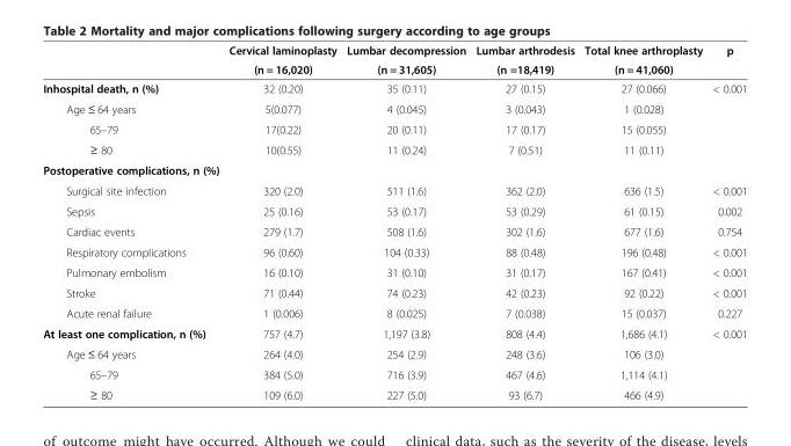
<table><thead><tr><td rowspan="2"></td><td rowspan="2">Cervical laminoplasty (n = 16,020)</td><td rowspan="2">Lumbar decompression (n = 31,605)</td><td rowspan="2">Lumbar arthrodesis (n =18,419)</td><td rowspan="2">Total knee arthroplasty (n = 41,060)</td><td rowspan="2">p</td></tr><tr></tr></thead><tbody><tr><td>Inhospital death, n (%)</td><td>32 (0.20)</td><td>35 (0.11)</td><td>27 (0.15)</td><td>27 (0.066)</td><td>&lt; 0.001</td></tr><tr><td>Age ≤ 64 years</td><td>5(0.077)</td><td>4 (0.045)</td><td>3 (0.043)</td><td>1 (0.028)</td><td></td></tr><tr><td>65–79</td><td>17(0.22)</td><td>20 (0.11)</td><td>17 (0.17)</td><td>15 (0.055)</td><td></td></tr><tr><td>≥ 80</td><td>10(0.55)</td><td>11 (0.24)</td><td>7 (0.51)</td><td>11 (0.11)</td><td></td></tr><tr><td colspan="6">Postoperative complications, n (%)</td></tr><tr><td>Surgical site infection</td><td>320 (2.0)</td><td>511 (1.6)</td><td>362 (2.0)</td><td>636 (1.5)</td><td>&lt; 0.001</td></tr><tr><td>Sepsis</td><td>25 (0.16)</td><td>53 (0.17)</td><td>53 (0.29)</td><td>61 (0.15)</td><td>0.002</td></tr><tr><td>Cardiac events</td><td>279 (1.7)</td><td>508 (1.6)</td><td>302 (1.6)</td><td>677 (1.6)</td><td>0.754</td></tr><tr><td>Respiratory complications</td><td>96 (0.60)</td><td>104 (0.33)</td><td>88 (0.48)</td><td>196 (0.48)</td><td>&lt; 0.001</td></tr><tr><td>Pulmonary embolism</td><td>16 (0.10)</td><td>31 (0.10)</td><td>31 (0.17)</td><td>167 (0.41)</td><td>&lt; 0.001</td></tr><tr><td>Stroke</td><td>71 (0.44)</td><td>74 (0.23)</td><td>42 (0.23)</td><td>92 (0.22)</td><td>&lt; 0.001</td></tr><tr><td>Acute renal failure</td><td>1 (0.006)</td><td>8 (0.025)</td><td>7 (0.038)</td><td>15 (0.037)</td><td>0.227</td></tr><tr><td>At least one complication, n (%)</td><td>757 (4.7)</td><td>1,197 (3.8)</td><td>808 (4.4)</td><td>1,686 (4.1)</td><td>&lt; 0.001</td></tr><tr><td>Age ≤ 64 years</td><td>264 (4.0)</td><td>254 (2.9)</td><td>248 (3.6)</td><td>106 (3.0)</td><td></td></tr><tr><td>65–79</td><td>384 (5.0)</td><td>716 (3.9)</td><td>467 (4.6)</td><td>1,114 (4.1)</td><td></td></tr><tr><td>≥ 80</td><td>109 (6.0)</td><td>227 (5.0)</td><td>93 (6.7)</td><td>466 (4.9)</td><td></td></tr></tbody></table>